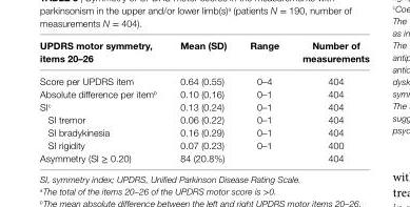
<table><thead><tr><td>UPDrs motor symmetry, items 20–26</td><td>Mean (sD)</td><td>range</td><td>number of measurements</td></tr></thead><tbody><tr><td>Score per UPDRS item</td><td>0.64 (0.55)</td><td>0–4</td><td>404</td></tr><tr><td>Absolute difference per item<sup>b</sup></td><td>0.10 (0.16)</td><td>0–1</td><td>404</td></tr><tr><td>SI<sup>c</sup></td><td>0.13 (0.24)</td><td>0–1</td><td>404</td></tr><tr><td>SI tremor</td><td>0.06 (0.22)</td><td>0–1</td><td>404</td></tr><tr><td>SI bradykinesia</td><td>0.16 (0.29)</td><td>0–1</td><td>404</td></tr><tr><td>SI rigidity</td><td>0.07 (0.23)</td><td>0–1</td><td>400</td></tr><tr><td>Asymmetry (SI ≥ 0.20)</td><td>84 (20.8%)</td><td></td><td>404</td></tr></tbody></table>